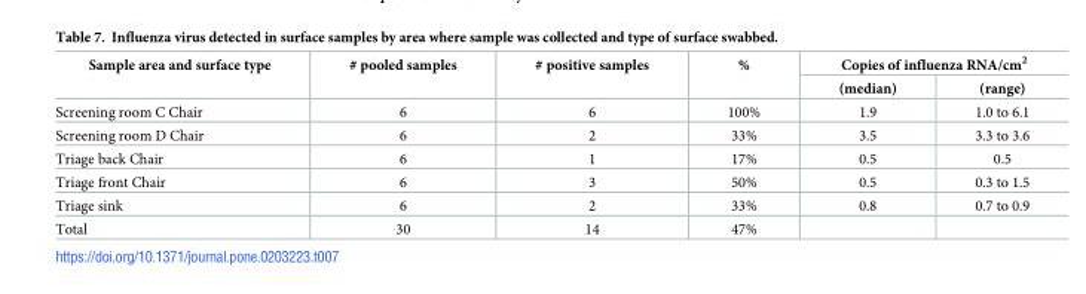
<table><thead><tr><td rowspan="2">Sample area and surface type</td><td rowspan="2"># pooled samples</td><td rowspan="2"># positive samples</td><td rowspan="2">%</td><td colspan="2">Copies of influenza RNA/cm<sup>2</sup></td></tr><tr><td>(median)</td><td>(range)</td></tr></thead><tbody><tr><td>Screening room C Chair</td><td>6</td><td>6</td><td>100%</td><td>1.9</td><td>1.0 to 6.1</td></tr><tr><td>Screening room D Chair</td><td>6</td><td>2</td><td>33%</td><td>3.5</td><td>3.3 to 3.6</td></tr><tr><td>Triage back Chair</td><td>6</td><td>1</td><td>17%</td><td>0.5</td><td>0.5</td></tr><tr><td>Triage front Chair</td><td>6</td><td>3</td><td>50%</td><td>0.5</td><td>0.3 to 1.5</td></tr><tr><td>Triage sink</td><td>6</td><td>2</td><td>33%</td><td>0.8</td><td>0.7 to 0.9</td></tr><tr><td>Total</td><td>30</td><td>14</td><td>47%</td><td></td><td></td></tr></tbody></table>